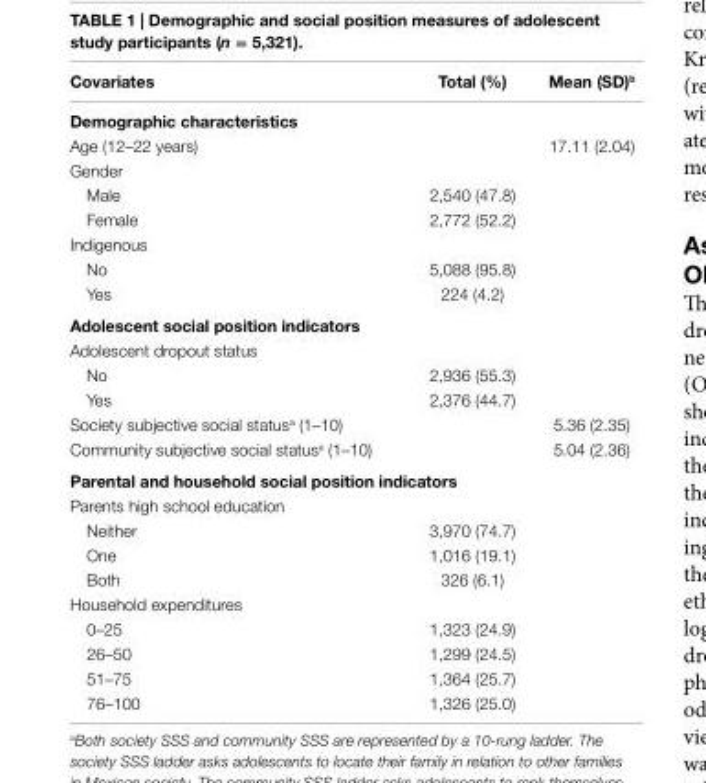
<table><thead><tr><td>covariates</td><td>Total (%)</td><td>Mean (sD)<sup>b</sup></td></tr></thead><tbody><tr><td colspan="3">Demographic characteristics</td></tr><tr><td>Age (12–22 years)</td><td></td><td>17.11 (2.04)</td></tr><tr><td colspan="3">Gender</td></tr><tr><td>Male</td><td>2,540 (47.8)</td><td></td></tr><tr><td>Female</td><td>2,772 (52.2)</td><td></td></tr><tr><td colspan="3">Indigenous</td></tr><tr><td>No</td><td>5,088 (95.8)</td><td></td></tr><tr><td>Yes</td><td>224 (4.2)</td><td></td></tr><tr><td colspan="3">adolescent social position indicators</td></tr><tr><td colspan="3">Adolescent dropout status</td></tr><tr><td>No</td><td>2,936 (55.3)</td><td></td></tr><tr><td>Yes</td><td>2,376 (44.7)</td><td></td></tr><tr><td>Society subjective social status<sup>a</sup> (1–10)</td><td></td><td>5.36 (2.35)</td></tr><tr><td>Community subjective social status<sup>a</sup> (1–10)</td><td></td><td>5.04 (2.36)</td></tr><tr><td colspan="3">Parental and household social position indicators</td></tr><tr><td colspan="3">Parents high school education</td></tr><tr><td>Neither</td><td>3,970 (74.7)</td><td></td></tr><tr><td>One</td><td>1,016 (19.1)</td><td></td></tr><tr><td>Both</td><td>326 (6.1)</td><td></td></tr><tr><td colspan="3">Household expenditures</td></tr><tr><td>0–25</td><td>1,323 (24.9)</td><td></td></tr><tr><td>26–50</td><td>1,299 (24.5)</td><td></td></tr><tr><td>51–75</td><td>1,364 (25.7)</td><td></td></tr><tr><td>76–100</td><td>1,326 (25.0)</td><td></td></tr></tbody></table>